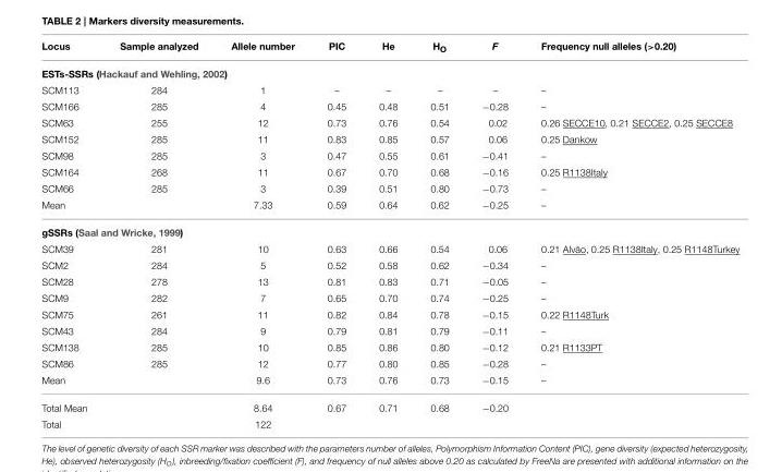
<table><thead><tr><td>Locus</td><td>Sample analyzed</td><td>Allele number</td><td>PIC</td><td>He</td><td>H<sub>O</sub></td><td>F</td><td>Frequency null alleles (&gt;0.20)</td></tr></thead><tbody><tr><td colspan="8">ESTs-SSRs (Hackauf and Wehling, 2002)</td></tr><tr><td>SCM113</td><td>284</td><td>1</td><td>–</td><td>–</td><td>–</td><td>–</td><td>–</td></tr><tr><td>SCM166</td><td>285</td><td>4</td><td>0.45</td><td>0.48</td><td>0.51</td><td>−0.28</td><td>–</td></tr><tr><td>SCM63</td><td>255</td><td>12</td><td>0.73</td><td>0.76</td><td>0.54</td><td>0.02</td><td>0.26 SECCE10, 0.21 SECCE2, 0.25 SECCE8</td></tr><tr><td>SCM152</td><td>285</td><td>11</td><td>0.83</td><td>0.85</td><td>0.57</td><td>0.06</td><td>0.25 Dankow</td></tr><tr><td>SCM98</td><td>285</td><td>3</td><td>0.47</td><td>0.55</td><td>0.61</td><td>−0.41</td><td>–</td></tr><tr><td>SCM164</td><td>268</td><td>11</td><td>0.67</td><td>0.70</td><td>0.68</td><td>−0.16</td><td>0.25 R1138Italy</td></tr><tr><td>SCM66</td><td>285</td><td>3</td><td>0.39</td><td>0.51</td><td>0.80</td><td>−0.73</td><td>–</td></tr><tr><td>Mean</td><td></td><td>7.33</td><td>0.59</td><td>0.64</td><td>0.62</td><td>−0.25</td><td>–</td></tr><tr><td colspan="8">gSSRs (Saal and Wricke, 1999)</td></tr><tr><td>SCM39</td><td>281</td><td>10</td><td>0.63</td><td>0.66</td><td>0.54</td><td>0.06</td><td>0.21 Alvão, 0.25 R1138Italy, 0.25 R1148Turkey</td></tr><tr><td>SCM2</td><td>284</td><td>5</td><td>0.52</td><td>0.58</td><td>0.62</td><td>−0.34</td><td>–</td></tr><tr><td>SCM28</td><td>278</td><td>13</td><td>0.81</td><td>0.83</td><td>0.71</td><td>−0.05</td><td>–</td></tr><tr><td>SCM9</td><td>282</td><td>7</td><td>0.65</td><td>0.70</td><td>0.74</td><td>−0.25</td><td>–</td></tr><tr><td>SCM75</td><td>261</td><td>11</td><td>0.82</td><td>0.84</td><td>0.78</td><td>−0.15</td><td>0.22 R1148Turk</td></tr><tr><td>SCM43</td><td>284</td><td>9</td><td>0.79</td><td>0.81</td><td>0.79</td><td>−0.11</td><td>–</td></tr><tr><td>SCM138</td><td>285</td><td>10</td><td>0.85</td><td>0.86</td><td>0.80</td><td>−0.12</td><td>0.21 R1133PT</td></tr><tr><td>SCM86</td><td>285</td><td>12</td><td>0.77</td><td>0.80</td><td>0.85</td><td>−0.28</td><td>–</td></tr><tr><td>Mean</td><td></td><td>9.6</td><td>0.73</td><td>0.76</td><td>0.73</td><td>−0.15</td><td>–</td></tr><tr><td>Total Mean</td><td></td><td>8.64</td><td>0.67</td><td>0.71</td><td>0.68</td><td>−0.20</td><td></td></tr><tr><td>Total</td><td></td><td>122</td><td></td><td></td><td></td><td></td><td></td></tr></tbody></table>